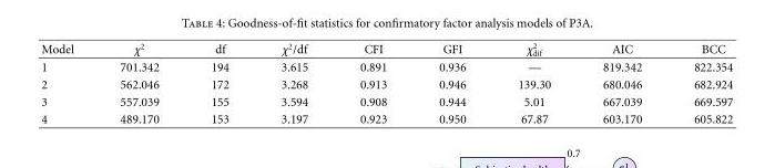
<table><thead><tr><td>Model</td><td>χ<sup>2</sup></td><td>df</td><td>χ<sup>2</sup>/df</td><td>CFI</td><td>GFI</td><td>χ2 dif</td><td>AIC</td><td>BCC</td></tr></thead><tbody><tr><td>1</td><td>701.342</td><td>194</td><td>3.615</td><td>0.891</td><td>0.936</td><td>—</td><td>819.342</td><td>822.354</td></tr><tr><td>2</td><td>562.046</td><td>172</td><td>3.268</td><td>0.913</td><td>0.946</td><td>139.30</td><td>680.046</td><td>682.924</td></tr><tr><td>3</td><td>557.039</td><td>155</td><td>3.594</td><td>0.908</td><td>0.944</td><td>5.01</td><td>667.039</td><td>669.597</td></tr><tr><td>4</td><td>489.170</td><td>153</td><td>3.197</td><td>0.923</td><td>0.950</td><td>67.87</td><td>603.170</td><td>605.822</td></tr></tbody></table>